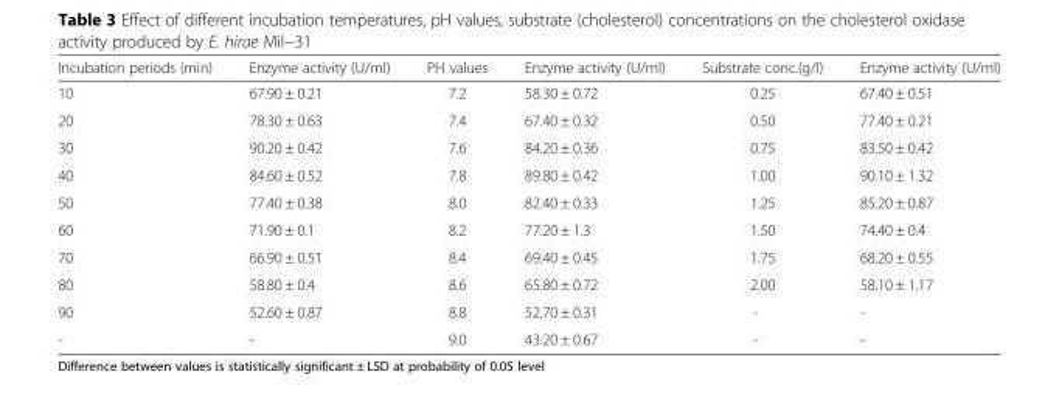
<table><thead><tr><td>Incubation periods (min)</td><td>Enzyme activity (U/ml)</td><td>PH values</td><td>Enzyme activity (U/ml)</td><td>Substrate conc.(g/l)</td><td>Enzyme activity (U/ml)</td></tr></thead><tbody><tr><td>10</td><td>67.90 ± 0.21</td><td>7.2</td><td>58.30 ± 0.72</td><td>0.25</td><td>67.40 ± 0.51</td></tr><tr><td>20</td><td>78.30 ± 0.63</td><td>7.4</td><td>67.40 ± 0.32</td><td>0.50</td><td>77.40 ± 0.21</td></tr><tr><td>30</td><td>90.20 ± 0.42</td><td>7.6</td><td>84.20 ± 0.36</td><td>0.75</td><td>83.50 ± 0.42</td></tr><tr><td>40</td><td>84.60 ± 0.52</td><td>7.8</td><td>89.80 ± 0.42</td><td>1.00</td><td>90.10 ± 1.32</td></tr><tr><td>50</td><td>77.40 ± 0.38</td><td>8.0</td><td>82.40 ± 0.33</td><td>1.25</td><td>85.20 ± 0.87</td></tr><tr><td>60</td><td>71.90 ± 0.1</td><td>8.2</td><td>77.20 ± 1.3</td><td>1.50</td><td>74.40 ± 0.4</td></tr><tr><td>70</td><td>66.90 ± 0.51</td><td>8.4</td><td>69.40 ± 0.45</td><td>1.75</td><td>68.20 ± 0.55</td></tr><tr><td>80</td><td>58.80 ± 0.4</td><td>8.6</td><td>65.80 ± 0.72</td><td>2.00</td><td>58.10 ± 1.17</td></tr><tr><td>90</td><td>52.60 ± 0.87</td><td>8.8</td><td>52.70 ± 0.31</td><td>-</td><td>-</td></tr><tr><td>-</td><td>-</td><td>9.0</td><td>43.20 ± 0.67</td><td>-</td><td>-</td></tr></tbody></table>